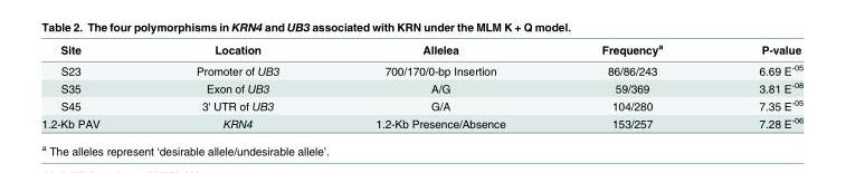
<table><thead><tr><td>Site</td><td>Location</td><td>Allelea</td><td>Frequency<sup>a</sup></td><td>P-value</td></tr></thead><tbody><tr><td>S23</td><td>Promoter of UB3</td><td>700/170/0-bp Insertion</td><td>86/86/243</td><td>6.69 E<sup>-05</sup></td></tr><tr><td>S35</td><td>Exon of UB3</td><td>A/G</td><td>59/369</td><td>3.81 E<sup>-08</sup></td></tr><tr><td>S45</td><td>3&#x27; UTR of UB3</td><td>G/A</td><td>104/280</td><td>7.35 E<sup>-05</sup></td></tr><tr><td>1.2-Kb PAV</td><td>KRN4</td><td>1.2-Kb Presence/Absence</td><td>153/257</td><td>7.28 E<sup>-06</sup></td></tr></tbody></table>